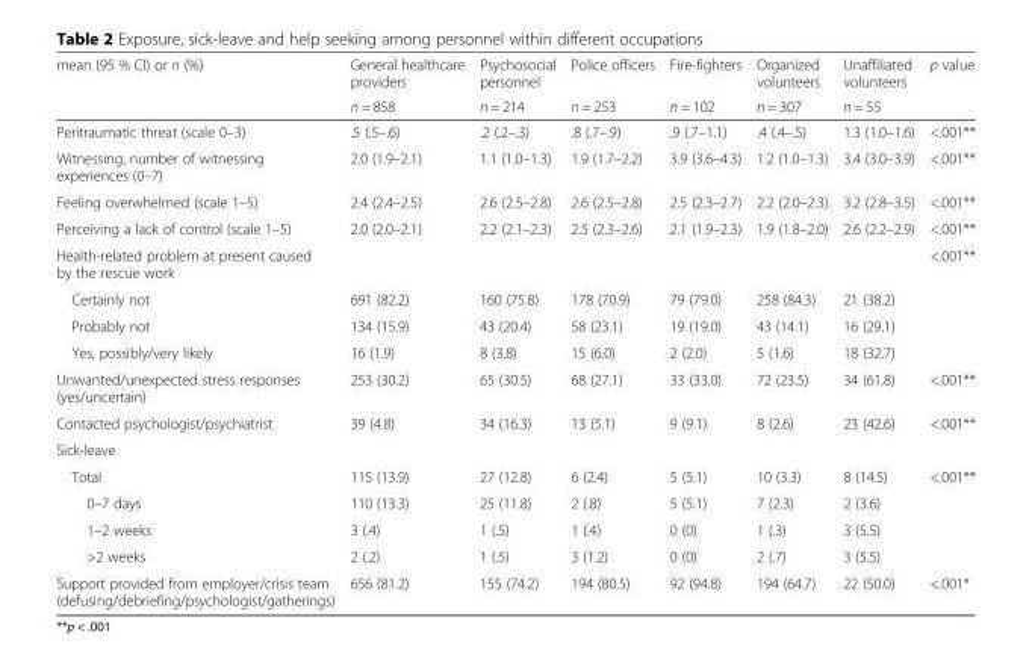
<table><thead><tr><td rowspan="2">mean (95 % CI) or n (%)</td><td rowspan="2">General healthcare providers n = 858</td><td rowspan="2">Psychosocial personnel n = 214</td><td rowspan="2">Police officers n = 253</td><td rowspan="2">Fire-fighters n = 102</td><td rowspan="2">Organized volunteers n = 307</td><td rowspan="2">Unaffiliated volunteers n = 55</td><td rowspan="2">p value</td></tr><tr></tr></thead><tbody><tr><td>Peritraumatic threat (scale 0–3)</td><td>.5 (.5–.6)</td><td>.2 (.2–.3)</td><td>.8 (.7–.9)</td><td>.9 (.7–1.1)</td><td>.4 (.4–.5)</td><td>1.3 (1.0–1.6)</td><td>&lt;.001**</td></tr><tr><td>Witnessing, number of witnessing experiences (0–7)</td><td>2.0 (1.9–2.1)</td><td>1.1 (1.0–1.3)</td><td>1.9 (1.7–2.2)</td><td>3.9 (3.6–4.3)</td><td>1.2 (1.0–1.3)</td><td>3.4 (3.0–3.9)</td><td>&lt;.001**</td></tr><tr><td>Feeling overwhelmed (scale 1–5)</td><td>2.4 (2.4–2.5)</td><td>2.6 (2.5–2.8)</td><td>2.6 (2.5–2.8)</td><td>2.5 (2.3–2.7)</td><td>2.2 (2.0–2.3)</td><td>3.2 (2.8–3.5)</td><td>&lt;.001**</td></tr><tr><td>Perceiving a lack of control (scale 1–5)</td><td>2.0 (2.0–2.1)</td><td>2.2 (2.1–2.3)</td><td>2.5 (2.3–2.6)</td><td>2.1 (1.9–2.3)</td><td>1.9 (1.8–2.0)</td><td>2.6 (2.2–2.9)</td><td>&lt;.001**</td></tr><tr><td colspan="7">Health-related problem at present caused by the rescue work</td><td>&lt;.001**</td></tr><tr><td>Certainly not</td><td>691 (82.2)</td><td>160 (75.8)</td><td>178 (70.9)</td><td>79 (79.0)</td><td>258 (84.3)</td><td>21 (38.2)</td><td></td></tr><tr><td>Probably not</td><td>134 (15.9)</td><td>43 (20.4)</td><td>58 (23.1)</td><td>19 (19.0)</td><td>43 (14.1)</td><td>16 (29.1)</td><td></td></tr><tr><td>Yes, possibly/very likely</td><td>16 (1.9)</td><td>8 (3.8)</td><td>15 (6.0)</td><td>2 (2.0)</td><td>5 (1.6)</td><td>18 (32.7)</td><td></td></tr><tr><td>Unwanted/unexpected stress responses (yes/uncertain)</td><td>253 (30.2)</td><td>65 (30.5)</td><td>68 (27.1)</td><td>33 (33.0)</td><td>72 (23.5)</td><td>34 (61.8)</td><td>&lt;.001**</td></tr><tr><td>Contacted psychologist/psychiatrist</td><td>39 (4.8)</td><td>34 (16.3)</td><td>13 (5.1)</td><td>9 (9.1)</td><td>8 (2.6)</td><td>23 (42.6)</td><td>&lt;.001**</td></tr><tr><td colspan="8">Sick-leave</td></tr><tr><td>Total</td><td>115 (13.9)</td><td>27 (12.8)</td><td>6 (2.4)</td><td>5 (5.1)</td><td>10 (3.3)</td><td>8 (14.5)</td><td>&lt;.001**</td></tr><tr><td>0–7 days</td><td>110 (13.3)</td><td>25 (11.8)</td><td>2 (.8)</td><td>5 (5.1)</td><td>7 (2.3)</td><td>2 (3.6)</td><td></td></tr><tr><td>1–2 weeks</td><td>3 (.4)</td><td>1 (.5)</td><td>1 (.4)</td><td>0 (0)</td><td>1 (.3)</td><td>3 (5.5)</td><td></td></tr><tr><td>&gt;2 weeks</td><td>2 (.2)</td><td>1 (.5)</td><td>3 (1.2)</td><td>0 (0)</td><td>2 (.7)</td><td>3 (5.5)</td><td></td></tr><tr><td>Support provided from employer/crisis team (defusing/debriefing/psychologist/gatherings)</td><td>656 (81.2)</td><td>155 (74.2)</td><td>194 (80.5)</td><td>92 (94.8)</td><td>194 (64.7)</td><td>22 (50.0)</td><td>&lt;.001*</td></tr></tbody></table>